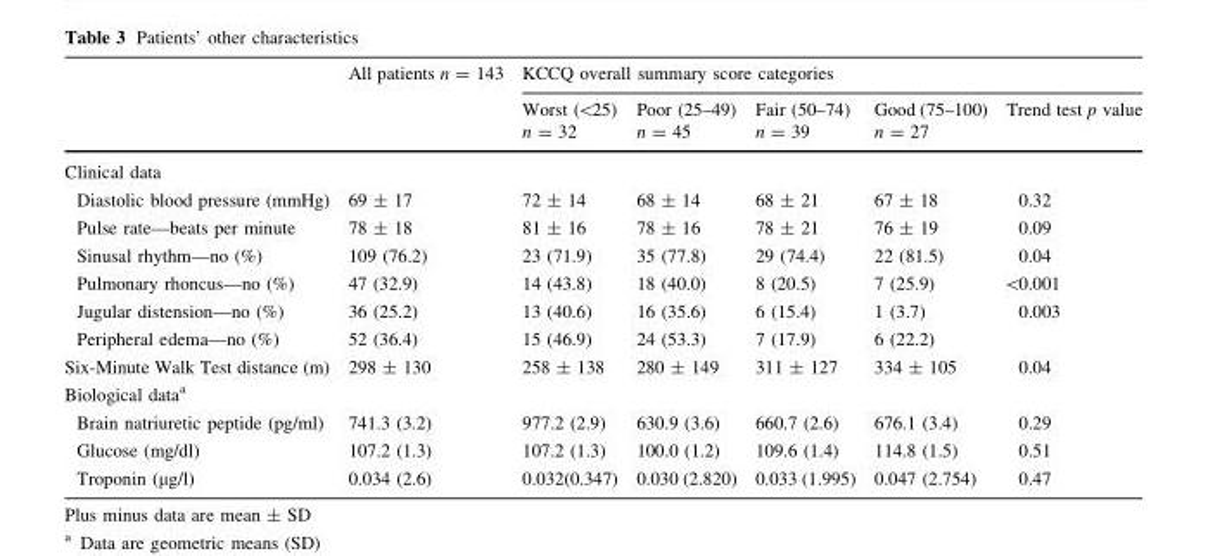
<table><thead><tr><td rowspan="2"></td><td rowspan="2">All patients n = 143</td><td colspan="5">KCCQ overall summary score categories</td></tr><tr><td>Worst (&lt;25) n = 32</td><td>Poor (25–49) n = 45</td><td>Fair (50–74) n = 39</td><td>Good (75–100) n = 27</td><td>Trend test p value</td></tr></thead><tbody><tr><td colspan="7">Clinical data</td></tr><tr><td>Diastolic blood pressure (mmHg)</td><td>69 ± 17</td><td>72 ± 14</td><td>68 ± 14</td><td>68 ± 21</td><td>67 ± 18</td><td>0.32</td></tr><tr><td>Pulse rate—beats per minute</td><td>78 ± 18</td><td>81 ± 16</td><td>78 ± 16</td><td>78 ± 21</td><td>76 ± 19</td><td>0.09</td></tr><tr><td>Sinusal rhythm—no (%)</td><td>109 (76.2)</td><td>23 (71.9)</td><td>35 (77.8)</td><td>29 (74.4)</td><td>22 (81.5)</td><td>0.04</td></tr><tr><td>Pulmonary rhoncus—no (%)</td><td>47 (32.9)</td><td>14 (43.8)</td><td>18 (40.0)</td><td>8 (20.5)</td><td>7 (25.9)</td><td>&lt;0.001</td></tr><tr><td>Jugular distension—no (%)</td><td>36 (25.2)</td><td>13 (40.6)</td><td>16 (35.6)</td><td>6 (15.4)</td><td>1 (3.7)</td><td>0.003</td></tr><tr><td>Peripheral edema—no (%)</td><td>52 (36.4)</td><td>15 (46.9)</td><td>24 (53.3)</td><td>7 (17.9)</td><td>6 (22.2)</td><td></td></tr><tr><td>Six-Minute Walk Test distance (m)</td><td>298 ± 130</td><td>258 ± 138</td><td>280 ± 149</td><td>311 ± 127</td><td>334 ± 105</td><td>0.04</td></tr><tr><td colspan="7">Biological data<sup>a</sup></td></tr><tr><td>Brain natriuretic peptide (pg/ml)</td><td>741.3 (3.2)</td><td>977.2 (2.9)</td><td>630.9 (3.6)</td><td>660.7 (2.6)</td><td>676.1 (3.4)</td><td>0.29</td></tr><tr><td>Glucose (mg/dl)</td><td>107.2 (1.3)</td><td>107.2 (1.3)</td><td>100.0 (1.2)</td><td>109.6 (1.4)</td><td>114.8 (1.5)</td><td>0.51</td></tr><tr><td>Troponin (µg/l)</td><td>0.034 (2.6)</td><td>0.032(0.347)</td><td>0.030 (2.820)</td><td>0.033 (1.995)</td><td>0.047 (2.754)</td><td>0.47</td></tr></tbody></table>